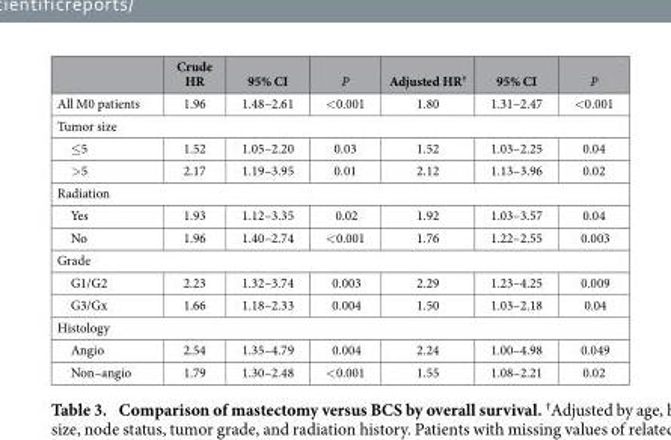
<table><thead><tr><td></td><td>Crude HR</td><td>95% CI</td><td>P</td><td>Adjusted HR†</td><td>95% CI</td><td>P</td></tr></thead><tbody><tr><td>All M0 patients</td><td>1.96</td><td>1.48–2.61</td><td>&lt;0.001</td><td>1.80</td><td>1.31–2.47</td><td>&lt;0.001</td></tr><tr><td colspan="7">Tumor size</td></tr><tr><td>≤ 5</td><td>1.52</td><td>1.05–2.20</td><td>0.03</td><td>1.52</td><td>1.03–2.25</td><td>0.04</td></tr><tr><td>&gt; 5</td><td>2.17</td><td>1.19–3.95</td><td>0.01</td><td>2.12</td><td>1.13–3.96</td><td>0.02</td></tr><tr><td colspan="7">Radiation</td></tr><tr><td>Yes</td><td>1.93</td><td>1.12–3.35</td><td>0.02</td><td>1.92</td><td>1.03–3.57</td><td>0.04</td></tr><tr><td>No</td><td>1.96</td><td>1.40–2.74</td><td>&lt;0.001</td><td>1.76</td><td>1.22–2.55</td><td>0.003</td></tr><tr><td colspan="7">Grade</td></tr><tr><td>G1/G2</td><td>2.23</td><td>1.32–3.74</td><td>0.003</td><td>2.29</td><td>1.23–4.25</td><td>0.009</td></tr><tr><td>G3/Gx</td><td>1.66</td><td>1.18–2.33</td><td>0.004</td><td>1.50</td><td>1.03–2.18</td><td>0.04</td></tr><tr><td colspan="7">Histology</td></tr><tr><td>Angio</td><td>2.54</td><td>1.35–4.79</td><td>0.004</td><td>2.24</td><td>1.00–4.98</td><td>0.049</td></tr><tr><td>Non–angio</td><td>1.79</td><td>1.30–2.48</td><td>&lt;0.001</td><td>1.55</td><td>1.08–2.21</td><td>0.02</td></tr></tbody></table>